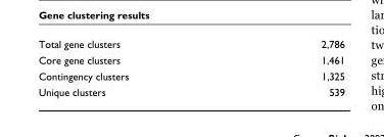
<table><tbody><tr><td>Total gene clusters</td><td>2,786</td></tr><tr><td>Core gene clusters</td><td>1,461</td></tr><tr><td>Contingency clusters</td><td>1,325</td></tr><tr><td>Unique clusters</td><td>539</td></tr></tbody></table>